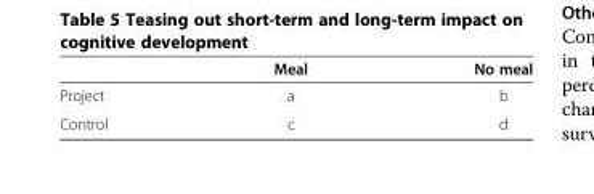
<table><thead><tr><td></td><td>Meal</td><td>No meal</td></tr></thead><tbody><tr><td>Project</td><td>a</td><td>b</td></tr><tr><td>Control</td><td>c</td><td>d</td></tr></tbody></table>